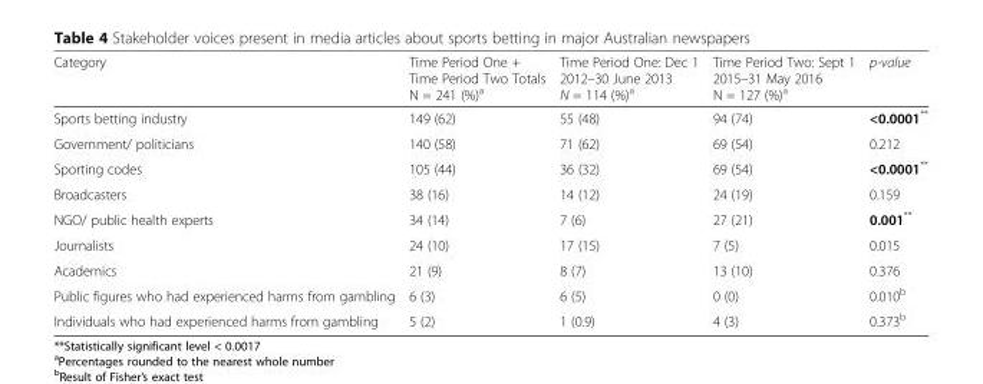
<table><thead><tr><td>Category</td><td>Time Period One + Time Period Two Totals N = 241 (%)<sup>a</sup></td><td>Time Period One: Dec 1 2012–30 June 2013 N = 114 (%)<sup>a</sup></td><td>Time Period Two: Sept 1 2015–31 May 2016 N = 127 (%)<sup>a</sup></td><td>p-value</td></tr></thead><tbody><tr><td>Sports betting industry</td><td>149 (62)</td><td>55 (48)</td><td>94 (74)</td><td>&lt;0.0001**</td></tr><tr><td>Government/ politicians</td><td>140 (58)</td><td>71 (62)</td><td>69 (54)</td><td>0.212</td></tr><tr><td>Sporting codes</td><td>105 (44)</td><td>36 (32)</td><td>69 (54)</td><td>&lt;0.0001**</td></tr><tr><td>Broadcasters</td><td>38 (16)</td><td>14 (12)</td><td>24 (19)</td><td>0.159</td></tr><tr><td>NGO/ public health experts</td><td>34 (14)</td><td>7 (6)</td><td>27 (21)</td><td>0.001**</td></tr><tr><td>Journalists</td><td>24 (10)</td><td>17 (15)</td><td>7 (5)</td><td>0.015</td></tr><tr><td>Academics</td><td>21 (9)</td><td>8 (7)</td><td>13 (10)</td><td>0.376</td></tr><tr><td>Public figures who had experienced harms from gambling</td><td>6 (3)</td><td>6 (5)</td><td>0 (0)</td><td>0.010<sup>b</sup></td></tr><tr><td>Individuals who had experienced harms from gambling</td><td>5 (2)</td><td>1 (0.9)</td><td>4 (3)</td><td>0.373<sup>b</sup></td></tr></tbody></table>